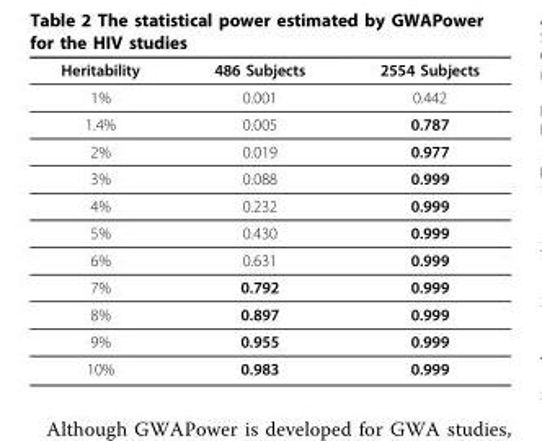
<table><thead><tr><td>Heritability</td><td>486 Subjects</td><td>2554 Subjects</td></tr></thead><tbody><tr><td>1%</td><td>0.001</td><td>0.442</td></tr><tr><td>1.4%</td><td>0.005</td><td>0.787</td></tr><tr><td>2%</td><td>0.019</td><td>0.977</td></tr><tr><td>3%</td><td>0.088</td><td>0.999</td></tr><tr><td>4%</td><td>0.232</td><td>0.999</td></tr><tr><td>5%</td><td>0.430</td><td>0.999</td></tr><tr><td>6%</td><td>0.631</td><td>0.999</td></tr><tr><td>7%</td><td>0.792</td><td>0.999</td></tr><tr><td>8%</td><td>0.897</td><td>0.999</td></tr><tr><td>9%</td><td>0.955</td><td>0.999</td></tr><tr><td>10%</td><td>0.983</td><td>0.999</td></tr></tbody></table>